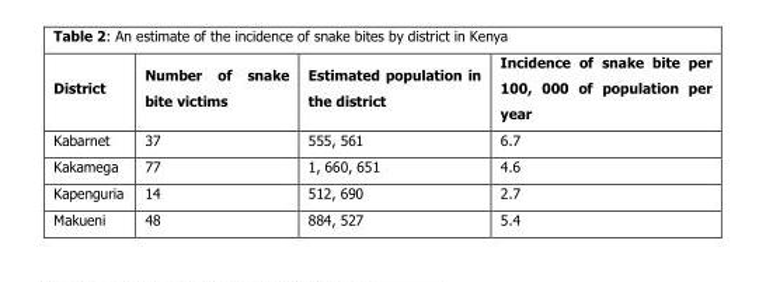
<table><thead><tr><td>District</td><td>Number of snake bite victims</td><td>Estimated population in the district</td><td>Incidence of snake bite per 100, 000 of population per year</td></tr></thead><tbody><tr><td>Kabarnet</td><td>37</td><td>555, 561</td><td>6.7</td></tr><tr><td>Kakamega</td><td>77</td><td>1, 660, 651</td><td>4.6</td></tr><tr><td>Kapenguria</td><td>14</td><td>512, 690</td><td>2.7</td></tr><tr><td>Makueni</td><td>48</td><td>884, 527</td><td>5.4</td></tr></tbody></table>